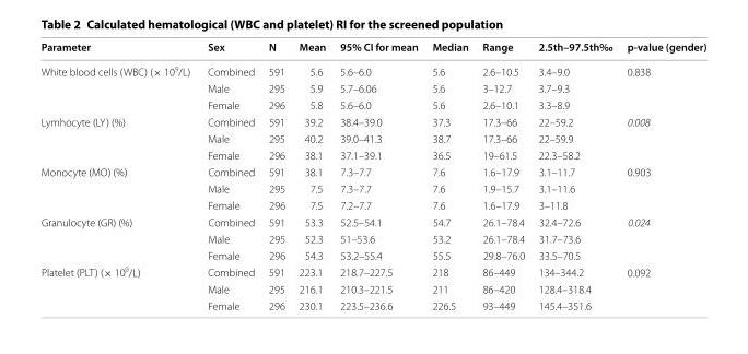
<table><thead><tr><td>Parameter</td><td>Sex</td><td>N</td><td>Mean</td><td>95% CI for mean</td><td>Median</td><td>Range</td><td>2.5th–97.5th‰</td><td>p-value (gender)</td></tr></thead><tbody><tr><td rowspan="3">White blood cells (WBC) (× 10<sup>9</sup>/L)</td><td>Combined</td><td>591</td><td>5.6</td><td>5.6–6.0</td><td>5.6</td><td>2.6–10.5</td><td>3.4–9.0</td><td rowspan="3">0.838</td></tr><tr><td>Male</td><td>295</td><td>5.9</td><td>5.7–6.06</td><td>5.6</td><td>3–12.7</td><td>3.7–9.3</td></tr><tr><td>Female</td><td>296</td><td>5.8</td><td>5.6–6.0</td><td>5.6</td><td>2.6–10.1</td><td>3.3–8.9</td></tr><tr><td rowspan="3">Lymhocyte (LY) (%)</td><td>Combined</td><td>591</td><td>39.2</td><td>38.4–39.0</td><td>37.3</td><td>17.3–66</td><td>22–59.2</td><td rowspan="3">0.008</td></tr><tr><td>Male</td><td>295</td><td>40.2</td><td>39.0–41.3</td><td>38.7</td><td>17.3–66</td><td>22–59.9</td></tr><tr><td>Female</td><td>296</td><td>38.1</td><td>37.1–39.1</td><td>36.5</td><td>19–61.5</td><td>22.3–58.2</td></tr><tr><td rowspan="3">Monocyte (MO) (%)</td><td>Combined</td><td>591</td><td>38.1</td><td>7.3–7.7</td><td>7.6</td><td>1.6–17.9</td><td>3.1–11.7</td><td rowspan="3">0.903</td></tr><tr><td>Male</td><td>295</td><td>7.5</td><td>7.3–7.7</td><td>7.6</td><td>1.9–15.7</td><td>3.1–11.6</td></tr><tr><td>Female</td><td>296</td><td>7.5</td><td>7.2–7.7</td><td>7.6</td><td>1.6–17.9</td><td>3–11.8</td></tr><tr><td rowspan="3">Granulocyte (GR) (%)</td><td>Combined</td><td>591</td><td>53.3</td><td>52.5–54.1</td><td>54.7</td><td>26.1–78.4</td><td>32.4–72.6</td><td rowspan="3">0.024</td></tr><tr><td>Male</td><td>295</td><td>52.3</td><td>51–53.6</td><td>53.2</td><td>26.1–78.4</td><td>31.7–73.6</td></tr><tr><td>Female</td><td>296</td><td>54.3</td><td>53.2–55.4</td><td>55.5</td><td>29.8–76.0</td><td>33.5–70.5</td></tr><tr><td rowspan="3">Platelet (PLT) (× 10<sup>9</sup>/L)</td><td>Combined</td><td>591</td><td>223.1</td><td>218.7–227.5</td><td>218</td><td>86–449</td><td>134–344.2</td><td rowspan="3">0.092</td></tr><tr><td>Male</td><td>295</td><td>216.1</td><td>210.3–221.5</td><td>211</td><td>86–420</td><td>128.4–318.4</td></tr><tr><td>Female</td><td>296</td><td>230.1</td><td>223.5–236.6</td><td>226.5</td><td>93–449</td><td>145.4–351.6</td></tr></tbody></table>